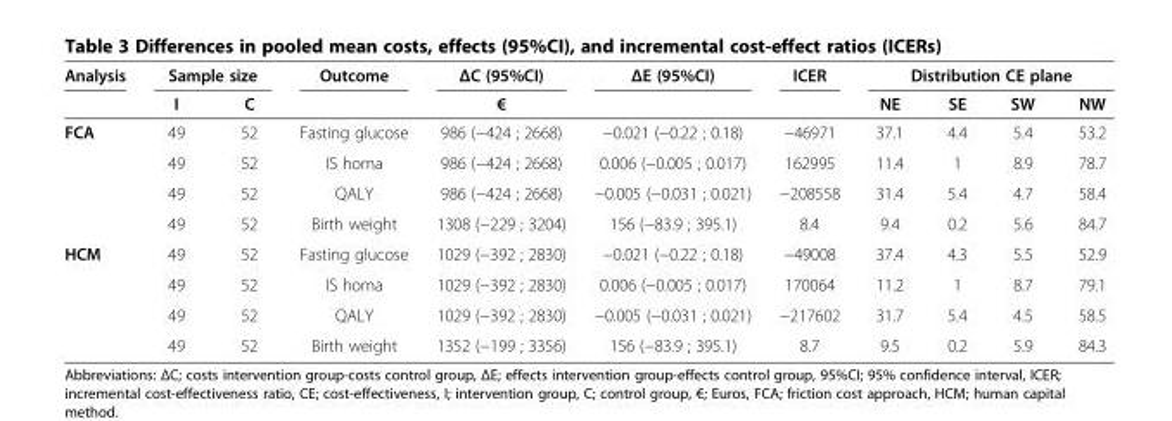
<table><thead><tr><td rowspan="2">Analysis</td><td colspan="2">Sample size</td><td rowspan="2">Outcome</td><td rowspan="2">ΔC (95%CI) €</td><td rowspan="2">ΔE (95%CI)</td><td rowspan="2">ICER</td><td colspan="4">Distribution CE plane</td></tr><tr><td>I</td><td>C</td><td>NE</td><td>SE</td><td>SW</td><td>NW</td></tr></thead><tbody><tr><td rowspan="4">FCA</td><td>49</td><td>52</td><td>Fasting glucose</td><td>986 (−424 ; 2668)</td><td>−0.021 (−0.22 ; 0.18)</td><td>−46971</td><td>37.1</td><td>4.4</td><td>5.4</td><td>53.2</td></tr><tr><td>49</td><td>52</td><td>IS homa</td><td>986 (−424 ; 2668)</td><td>0.006 (−0.005 ; 0.017)</td><td>162995</td><td>11.4</td><td>1</td><td>8.9</td><td>78.7</td></tr><tr><td>49</td><td>52</td><td>QALY</td><td>986 (−424 ; 2668)</td><td>−0.005 (−0.031 ; 0.021)</td><td>−208558</td><td>31.4</td><td>5.4</td><td>4.7</td><td>58.4</td></tr><tr><td>49</td><td>52</td><td>Birth weight</td><td>1308 (−229 ; 3204)</td><td>156 (−83.9 ; 395.1)</td><td>8.4</td><td>9.4</td><td>0.2</td><td>5.6</td><td>84.7</td></tr><tr><td rowspan="4">HCM</td><td>49</td><td>52</td><td>Fasting glucose</td><td>1029 (−392 ; 2830)</td><td>−0.021 (−0.22 ; 0.18)</td><td>−49008</td><td>37.4</td><td>4.3</td><td>5.5</td><td>52.9</td></tr><tr><td>49</td><td>52</td><td>IS homa</td><td>1029 (−392 ; 2830)</td><td>0.006 (−0.005 ; 0.017)</td><td>170064</td><td>11.2</td><td>1</td><td>8.7</td><td>79.1</td></tr><tr><td>49</td><td>52</td><td>QALY</td><td>1029 (−392 ; 2830)</td><td>−0.005 (−0.031 ; 0.021)</td><td>−217602</td><td>31.7</td><td>5.4</td><td>4.5</td><td>58.5</td></tr><tr><td>49</td><td>52</td><td>Birth weight</td><td>1352 (−199 ; 3356)</td><td>156 (−83.9 ; 395.1)</td><td>8.7</td><td>9.5</td><td>0.2</td><td>5.9</td><td>84.3</td></tr></tbody></table>